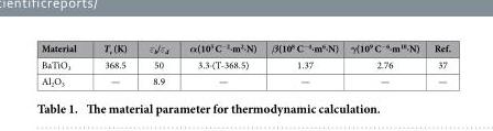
<table><thead><tr><td>Material</td><td>T<sub>c</sub> (K)</td><td>ε<sub>b</sub>/ε<sub>d</sub></td><td>α(10<sup>5</sup> C<sup>−2</sup>·m<sup>2</sup>·N)</td><td>β(10<sup>8</sup> C<sup>−4</sup>·m<sup>6</sup>·N)</td><td>γ(10<sup>9</sup> C<sup>−6</sup>·m<sup>10</sup>·N)</td><td>Ref.</td></tr></thead><tbody><tr><td>BaTiO<sub>3</sub></td><td>368.5</td><td>50</td><td>3.3·(T-368.5)</td><td>1.37</td><td>2.76</td><td>37</td></tr><tr><td>Al<sub>2</sub>O<sub>3</sub></td><td>—</td><td>8.9</td><td>—</td><td>—</td><td>—</td><td>—</td></tr></tbody></table>